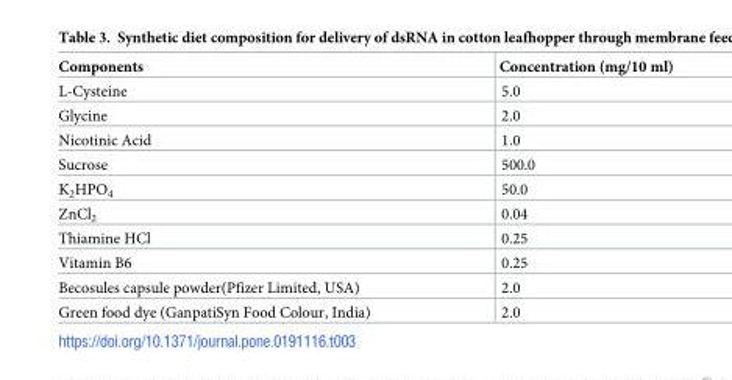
<table><thead><tr><td>Components</td><td>Concentration (mg/10 ml)</td></tr></thead><tbody><tr><td>L-Cysteine</td><td>5.0</td></tr><tr><td>Glycine</td><td>2.0</td></tr><tr><td>Nicotinic Acid</td><td>1.0</td></tr><tr><td>Sucrose</td><td>500.0</td></tr><tr><td>K<sub>2</sub>HPO<sub>4</sub></td><td>50.0</td></tr><tr><td>ZnCl<sub>2</sub></td><td>0.04</td></tr><tr><td>Thiamine HCl</td><td>0.25</td></tr><tr><td>Vitamin B6</td><td>0.25</td></tr><tr><td>Becosules capsule powder(Pfizer Limited, USA)</td><td>2.0</td></tr><tr><td>Green food dye (GanpatiSyn Food Colour, India)</td><td>2.0</td></tr></tbody></table>